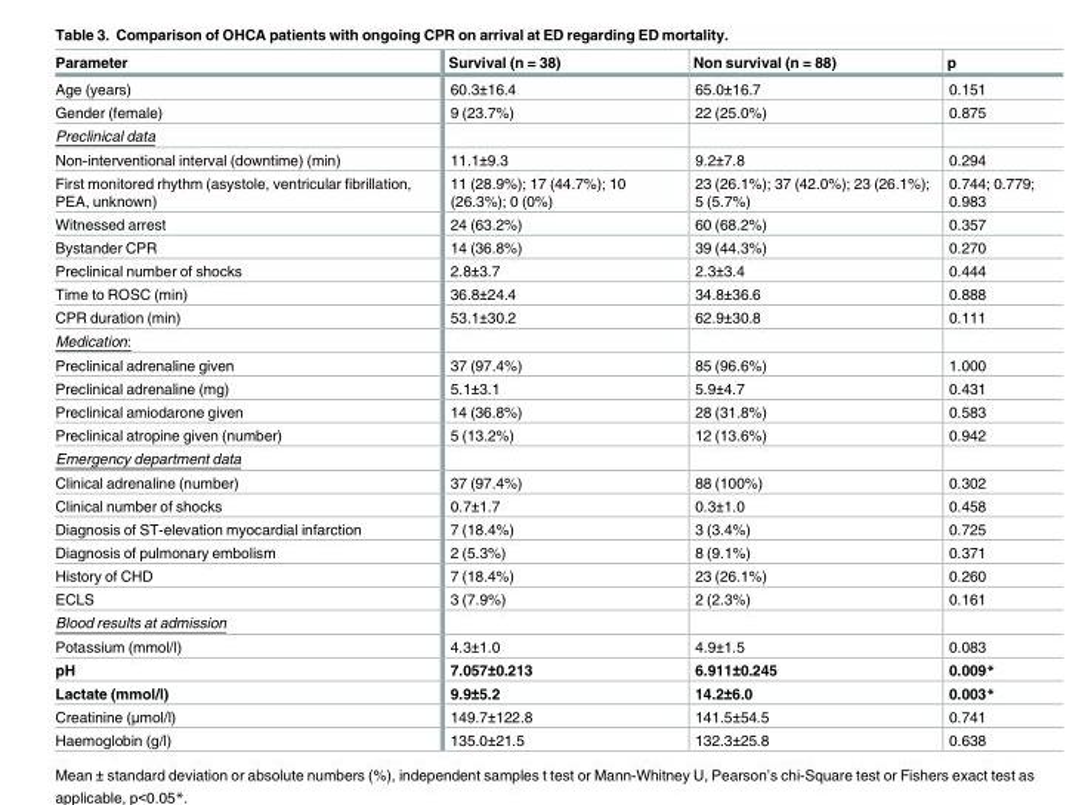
<table><thead><tr><td>Parameter</td><td>Survival (n = 38)</td><td>Non survival (n = 88)</td><td>p</td></tr></thead><tbody><tr><td>Age (years)</td><td>60.3±16.4</td><td>65.0±16.7</td><td>0.151</td></tr><tr><td>Gender (female)</td><td>9 (23.7%)</td><td>22 (25.0%)</td><td>0.875</td></tr><tr><td colspan="4">Preclinical data</td></tr><tr><td>Non-interventional interval (downtime) (min)</td><td>11.1±9.3</td><td>9.2±7.8</td><td>0.294</td></tr><tr><td>First monitored rhythm (asystole, ventricular fibrillation, PEA, unknown)</td><td>11 (28.9%); 17 (44.7%); 10 (26.3%); 0 (0%)</td><td>23 (26.1%); 37 (42.0%); 23 (26.1%); 5 (5.7%)</td><td>0.744; 0.779; 0.983</td></tr><tr><td>Witnessed arrest</td><td>24 (63.2%)</td><td>60 (68.2%)</td><td>0.357</td></tr><tr><td>Bystander CPR</td><td>14 (36.8%)</td><td>39 (44.3%)</td><td>0.270</td></tr><tr><td>Preclinical number of shocks</td><td>2.8±3.7</td><td>2.3±3.4</td><td>0.444</td></tr><tr><td>Time to ROSC (min)</td><td>36.8±24.4</td><td>34.8±36.6</td><td>0.888</td></tr><tr><td>CPR duration (min)</td><td>53.1±30.2</td><td>62.9±30.8</td><td>0.111</td></tr><tr><td colspan="4">Medication:</td></tr><tr><td>Preclinical adrenaline given</td><td>37 (97.4%)</td><td>85 (96.6%)</td><td>1.000</td></tr><tr><td>Preclinical adrenaline (mg)</td><td>5.1±3.1</td><td>5.9±4.7</td><td>0.431</td></tr><tr><td>Preclinical amiodarone given</td><td>14 (36.8%)</td><td>28 (31.8%)</td><td>0.583</td></tr><tr><td>Preclinical atropine given (number)</td><td>5 (13.2%)</td><td>12 (13.6%)</td><td>0.942</td></tr><tr><td colspan="4">Emergency department data</td></tr><tr><td>Clinical adrenaline (number)</td><td>37 (97.4%)</td><td>88 (100%)</td><td>0.302</td></tr><tr><td>Clinical number of shocks</td><td>0.7±1.7</td><td>0.3±1.0</td><td>0.458</td></tr><tr><td>Diagnosis of ST-elevation myocardial infarction</td><td>7 (18.4%)</td><td>3 (3.4%)</td><td>0.725</td></tr><tr><td>Diagnosis of pulmonary embolism</td><td>2 (5.3%)</td><td>8 (9.1%)</td><td>0.371</td></tr><tr><td>History of CHD</td><td>7 (18.4%)</td><td>23 (26.1%)</td><td>0.260</td></tr><tr><td>ECLS</td><td>3 (7.9%)</td><td>2 (2.3%)</td><td>0.161</td></tr><tr><td colspan="4">Blood results at admission</td></tr><tr><td>Potassium (mmol/l)</td><td>4.3±1.0</td><td>4.9±1.5</td><td>0.083</td></tr><tr><td>pH</td><td>7.057±0.213</td><td>6.911±0.245</td><td>0.009*</td></tr><tr><td>Lactate (mmol/l)</td><td>9.9±5.2</td><td>14.2±6.0</td><td>0.003*</td></tr><tr><td>Creatinine (μmol/l)</td><td>149.7±122.8</td><td>141.5±54.5</td><td>0.741</td></tr><tr><td>Haemoglobin (g/l)</td><td>135.0±21.5</td><td>132.3±25.8</td><td>0.638</td></tr></tbody></table>